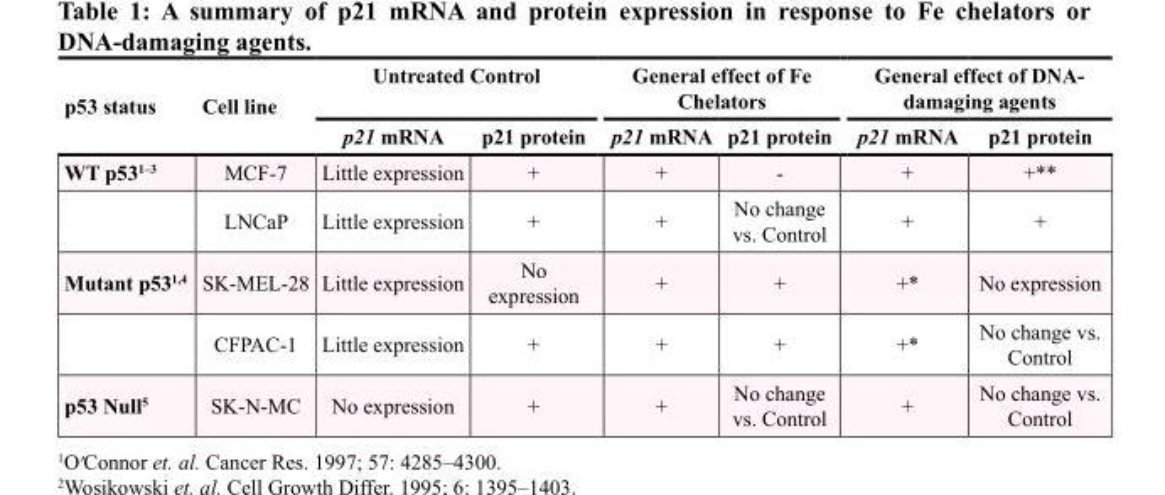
<table><thead><tr><td rowspan="2">p53 status</td><td rowspan="2">Cell line</td><td colspan="2">Untreated Control</td><td colspan="2">General effect of Fe Chelators</td><td colspan="2">General effect of DNA- damaging agents</td></tr><tr><td>p21 mRNA</td><td>p21 protein</td><td>p21 mRNA</td><td>p21 protein</td><td>p21 mRNA</td><td>p21 protein</td></tr></thead><tbody><tr><td rowspan="2">WT p53<sup>1–3</sup></td><td>MCF-7</td><td>Little expression</td><td>+</td><td>+</td><td>-</td><td>+</td><td>+**</td></tr><tr><td>LNCaP</td><td>Little expression</td><td>+</td><td>+</td><td>No change vs. Control</td><td>+</td><td>+</td></tr><tr><td rowspan="2">Mutant p53<sup>1,4</sup></td><td>SK-MEL-28</td><td>Little expression</td><td>No expression</td><td>+</td><td>+</td><td>+*</td><td>No expression</td></tr><tr><td>CFPAC-1</td><td>Little expression</td><td>+</td><td>+</td><td>+</td><td>+*</td><td>No change vs. Control</td></tr><tr><td>p53 Null<sup>5</sup></td><td>SK-N-MC</td><td>No expression</td><td>+</td><td>+</td><td>No change vs. Control</td><td>+</td><td>No change vs. Control</td></tr></tbody></table>